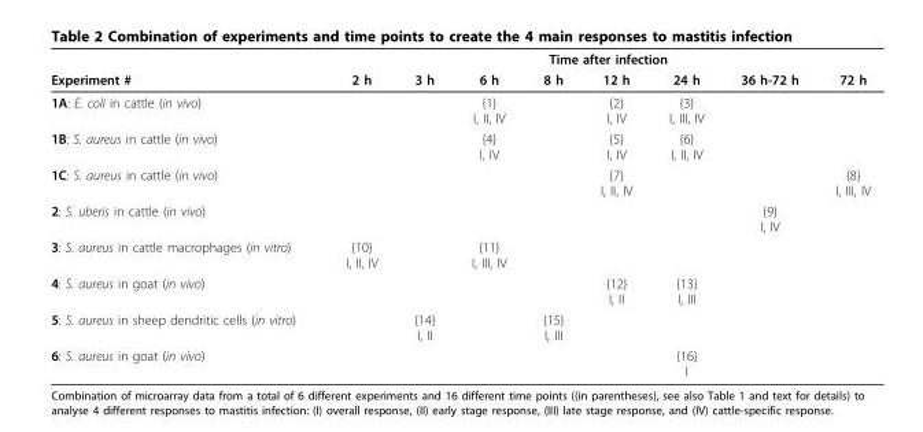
<table><thead><tr><td rowspan="2">Experiment #</td><td colspan="8">Time after infection</td></tr><tr><td>2 h</td><td>3 h</td><td>6 h</td><td>8 h</td><td>12 h</td><td>24 h</td><td>36 h-72 h</td><td>72 h</td></tr></thead><tbody><tr><td>1A: E. coli in cattle (in vivo)</td><td></td><td></td><td>{1} I, II, IV</td><td></td><td>{2} I, IV</td><td>{3} I, III, IV</td><td></td><td></td></tr><tr><td>1B: S. aureus in cattle (in vivo)</td><td></td><td></td><td>{4} I, IV</td><td></td><td>{5} I, IV</td><td>{6} I, II, IV</td><td></td><td></td></tr><tr><td>1C: S. aureus in cattle (in vivo)</td><td></td><td></td><td></td><td></td><td>{7} I, II, IV</td><td></td><td></td><td>{8} I, III, IV</td></tr><tr><td>2: S. uberis in cattle (in vivo)</td><td></td><td></td><td></td><td></td><td></td><td></td><td>{9} I, IV</td><td></td></tr><tr><td>3: S. aureus in cattle macrophages (in vitro)</td><td>{10} I, II, IV</td><td></td><td>{11} I, III, IV</td><td></td><td></td><td></td><td></td><td></td></tr><tr><td>4: S. aureus in goat (in vivo)</td><td></td><td></td><td></td><td></td><td>{12} I, II</td><td>{13} I, III</td><td></td><td></td></tr><tr><td>5: S. aureus in sheep dendritic cells (in vitro)</td><td></td><td>{14} I, II</td><td></td><td>{15} I, III</td><td></td><td></td><td></td><td></td></tr><tr><td>6: S. aureus in goat (in vivo)</td><td></td><td></td><td></td><td></td><td></td><td>{16} I</td><td></td><td></td></tr></tbody></table>